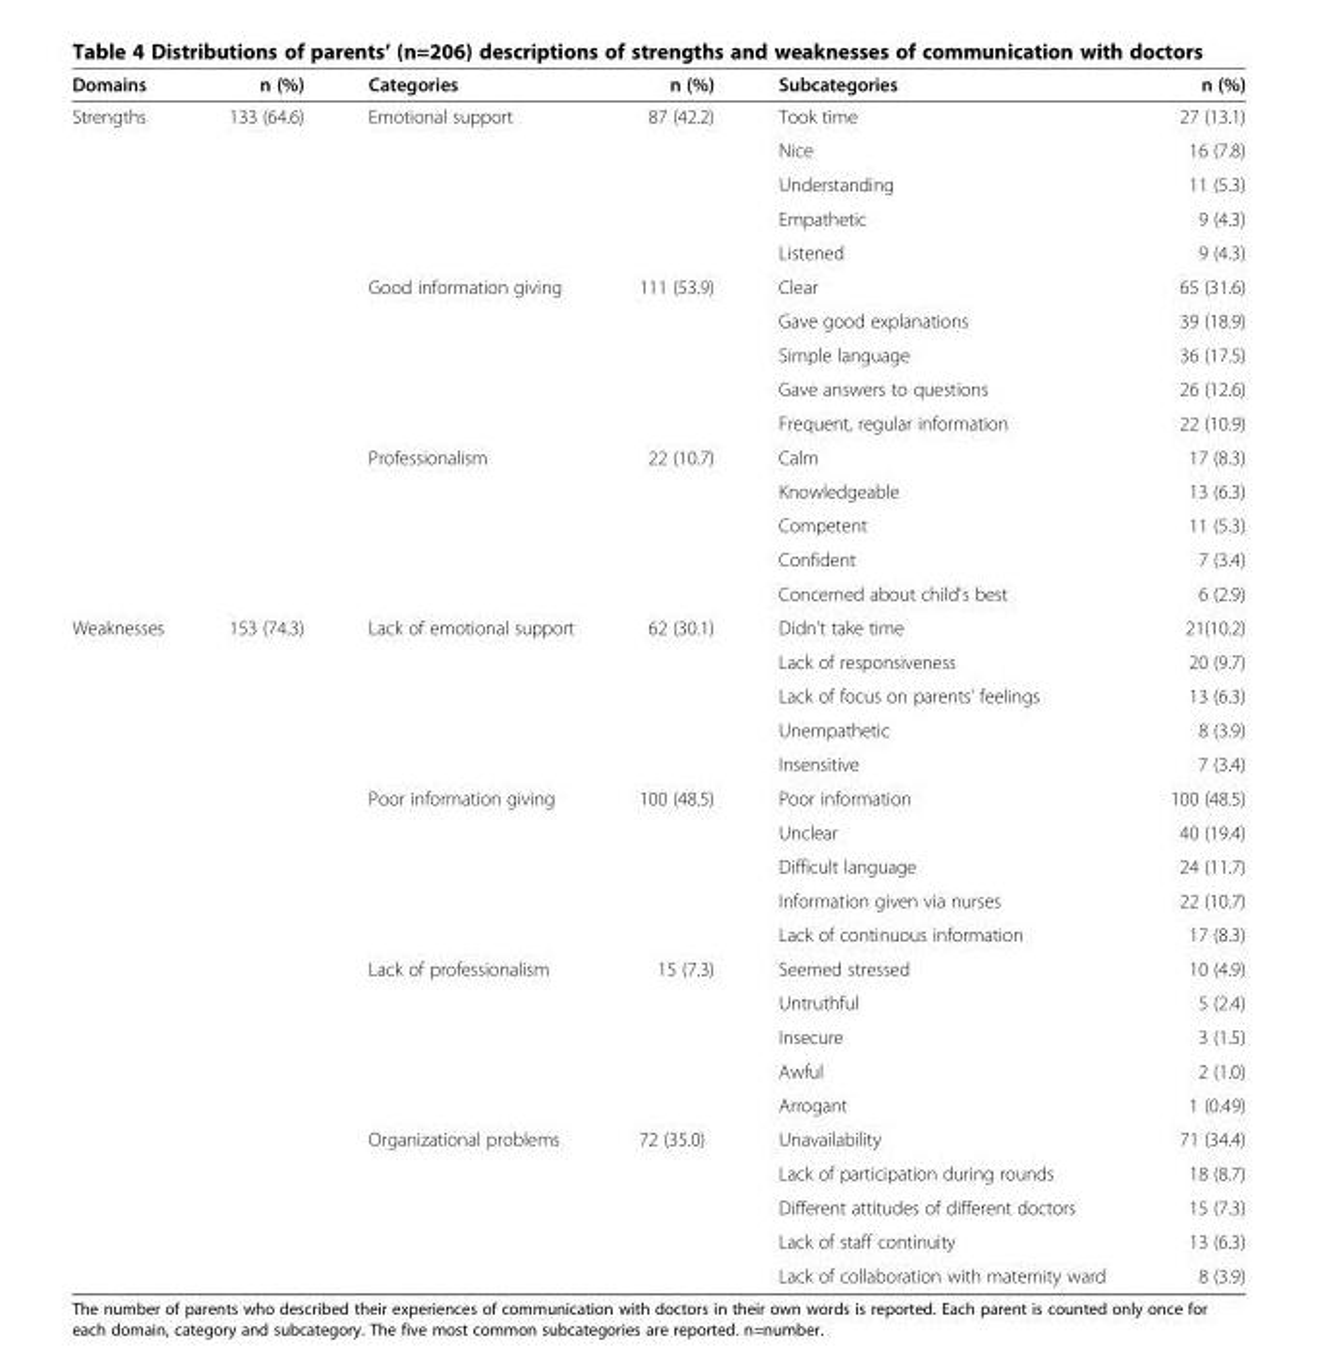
<table><thead><tr><td>Domains</td><td>n (%)</td><td>Categories</td><td>n (%)</td><td>Subcategories</td><td>n (%)</td></tr></thead><tbody><tr><td rowspan="15">Strengths</td><td>133 (64.6)</td><td>Emotional support</td><td>87 (42.2)</td><td>Took time</td><td>27 (13.1)</td></tr><tr><td></td><td></td><td></td><td>Nice</td><td>16 (7.8)</td></tr><tr><td></td><td></td><td></td><td>Understanding</td><td>11 (5.3)</td></tr><tr><td></td><td></td><td></td><td>Empathetic</td><td>9 (4.3)</td></tr><tr><td></td><td></td><td></td><td>Listened</td><td>9 (4.3)</td></tr><tr><td></td><td>Good information giving</td><td>111 (53.9)</td><td>Clear</td><td>65 (31.6)</td></tr><tr><td></td><td></td><td></td><td>Gave good explanations</td><td>39 (18.9)</td></tr><tr><td></td><td></td><td></td><td>Simple language</td><td>36 (17.5)</td></tr><tr><td></td><td></td><td></td><td>Gave answers to questions</td><td>26 (12.6)</td></tr><tr><td></td><td></td><td></td><td>Frequent, regular information</td><td>22 (10.9)</td></tr><tr><td></td><td>Professionalism</td><td>22 (10.7)</td><td>Calm</td><td>17 (8.3)</td></tr><tr><td></td><td></td><td></td><td>Knowledgeable</td><td>13 (6.3)</td></tr><tr><td></td><td></td><td></td><td>Competent</td><td>11 (5.3)</td></tr><tr><td></td><td></td><td></td><td>Confident</td><td>7 (3.4)</td></tr><tr><td></td><td></td><td></td><td>Concerned about child&#x27;s best</td><td>6 (2.9)</td></tr><tr><td rowspan="20">Weaknesses</td><td>153 (74.3)</td><td>Lack of emotional support</td><td>62 (30.1)</td><td>Didn’t take time</td><td>21(10.2)</td></tr><tr><td></td><td></td><td></td><td>Lack of responsiveness</td><td>20 (9.7)</td></tr><tr><td></td><td></td><td></td><td>Lack of focus on parents’ feelings</td><td>13 (6.3)</td></tr><tr><td></td><td></td><td></td><td>Unempathetic</td><td>8 (3.9)</td></tr><tr><td></td><td></td><td></td><td>Insensitive</td><td>7 (3.4)</td></tr><tr><td></td><td>Poor information giving</td><td>100 (48.5)</td><td>Poor information</td><td>100 (48.5)</td></tr><tr><td></td><td></td><td></td><td>Unclear</td><td>40 (19.4)</td></tr><tr><td></td><td></td><td></td><td>Difficult language</td><td>24 (11.7)</td></tr><tr><td></td><td></td><td></td><td>Information given via nurses</td><td>22 (10.7)</td></tr><tr><td></td><td></td><td></td><td>Lack of continuous information</td><td>17 (8.3)</td></tr><tr><td></td><td>Lack of professionalism</td><td>15 (7.3)</td><td>Seemed stressed</td><td>10 (4.9)</td></tr><tr><td></td><td></td><td></td><td>Untruthful</td><td>5 (2.4)</td></tr><tr><td></td><td></td><td></td><td>Insecure</td><td>3 (1.5)</td></tr><tr><td></td><td></td><td></td><td>Awful</td><td>2 (1.0)</td></tr><tr><td></td><td></td><td></td><td>Arrogant</td><td>1 (0.49)</td></tr><tr><td></td><td>Organizational problems</td><td>72 (35.0)</td><td>Unavailability</td><td>71 (34.4)</td></tr><tr><td></td><td></td><td></td><td>Lack of participation during rounds</td><td>18 (8.7)</td></tr><tr><td></td><td></td><td></td><td>Different attitudes of different doctors</td><td>15 (7.3)</td></tr><tr><td></td><td></td><td></td><td>Lack of staff continuity</td><td>13 (6.3)</td></tr><tr><td></td><td></td><td></td><td>Lack of collaboration with maternity ward</td><td>8 (3.9)</td></tr></tbody></table>